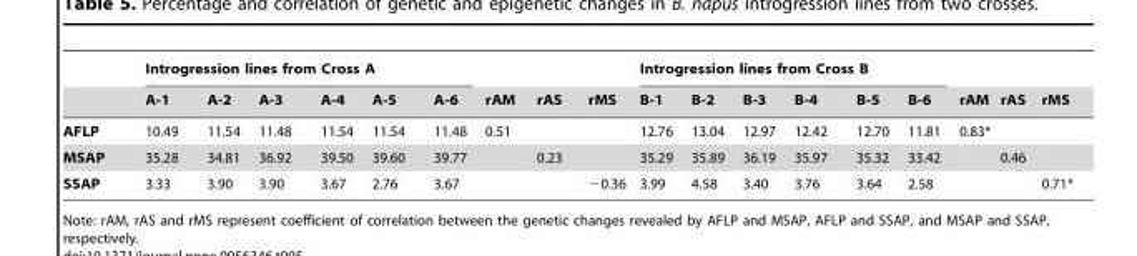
<table><thead><tr><td rowspan="2"></td><td colspan="6">Introgression lines from Cross A</td><td rowspan="2">rAM</td><td rowspan="2">rAS</td><td rowspan="2">rMS</td><td colspan="6">Introgression lines from Cross B</td><td rowspan="2">rAM</td><td rowspan="2">rAS</td><td rowspan="2">rMS</td></tr><tr><td>A-1</td><td>A-2</td><td>A-3</td><td>A-4</td><td>A-5</td><td>A-6</td><td>B-1</td><td>B-2</td><td>B-3</td><td>B-4</td><td>B-5</td><td>B-6</td></tr></thead><tbody><tr><td>AFLP</td><td>10.49</td><td>11.54</td><td>11.48</td><td>11.54</td><td>11.54</td><td>11.48</td><td>0.51</td><td></td><td></td><td>12.76</td><td>13.04</td><td>12.97</td><td>12.42</td><td>12.70</td><td>11.81</td><td>0.83*</td><td></td><td></td></tr><tr><td>MSAP</td><td>35.28</td><td>34.81</td><td>36.92</td><td>39.50</td><td>39.60</td><td>39.77</td><td></td><td>0.23</td><td></td><td>35.29</td><td>35.89</td><td>36.19</td><td>35.97</td><td>35.32</td><td>33.42</td><td></td><td>0.46</td><td></td></tr><tr><td>SSAP</td><td>3.33</td><td>3.90</td><td>3.90</td><td>3.67</td><td>2.76</td><td>3.67</td><td></td><td></td><td>−0.36</td><td>3.99</td><td>4.58</td><td>3.40</td><td>3.76</td><td>3.64</td><td>2.58</td><td></td><td></td><td>0.71*</td></tr></tbody></table>